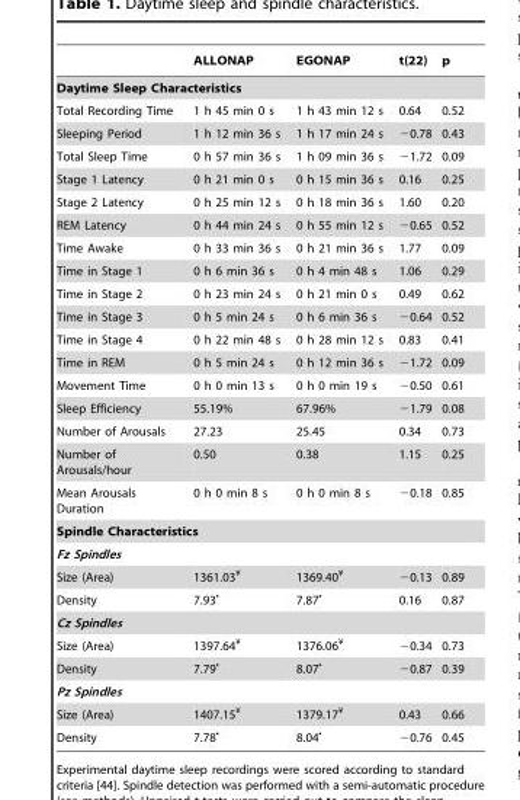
<table><thead><tr><td></td><td>ALLONAP</td><td>EGONAP</td><td>t(22)</td><td>p</td></tr></thead><tbody><tr><td colspan="5">Daytime Sleep Characteristics</td></tr><tr><td>Total Recording Time</td><td>1 h 45 min 0 s</td><td>1 h 43 min 12 s</td><td>0.64</td><td>0.52</td></tr><tr><td>Sleeping Period</td><td>1 h 12 min 36 s</td><td>1 h 17 min 24 s</td><td>−0.78</td><td>0.43</td></tr><tr><td>Total Sleep Time</td><td>0 h 57 min 36 s</td><td>1 h 09 min 36 s</td><td>−1.72</td><td>0.09</td></tr><tr><td>Stage 1 Latency</td><td>0 h 21 min 0 s</td><td>0 h 15 min 36 s</td><td>0.16</td><td>0.25</td></tr><tr><td>Stage 2 Latency</td><td>0 h 25 min 12 s</td><td>0 h 18 min 36 s</td><td>1.60</td><td>0.20</td></tr><tr><td>REM Latency</td><td>0 h 44 min 24 s</td><td>0 h 55 min 12 s</td><td>−0.65</td><td>0.52</td></tr><tr><td>Time Awake</td><td>0 h 33 min 36 s</td><td>0 h 21 min 36 s</td><td>1.77</td><td>0.09</td></tr><tr><td>Time in Stage 1</td><td>0 h 6 min 36 s</td><td>0 h 4 min 48 s</td><td>1.06</td><td>0.29</td></tr><tr><td>Time in Stage 2</td><td>0 h 23 min 24 s</td><td>0 h 21 min 0 s</td><td>0.49</td><td>0.62</td></tr><tr><td>Time in Stage 3</td><td>0 h 5 min 24 s</td><td>0 h 6 min 36 s</td><td>−0.64</td><td>0.52</td></tr><tr><td>Time in Stage 4</td><td>0 h 22 min 48 s</td><td>0 h 28 min 12 s</td><td>0.83</td><td>0.41</td></tr><tr><td>Time in REM</td><td>0 h 5 min 24 s</td><td>0 h 12 min 36 s</td><td>−1.72</td><td>0.09</td></tr><tr><td>Movement Time</td><td>0 h 0 min 13 s</td><td>0 h 0 min 19 s</td><td>−0.50</td><td>0.61</td></tr><tr><td>Sleep Efficiency</td><td>55.19%</td><td>67.96%</td><td>−1.79</td><td>0.08</td></tr><tr><td>Number of Arousals</td><td>27.23</td><td>25.45</td><td>0.34</td><td>0.73</td></tr><tr><td>Number of Arousals/hour</td><td>0.50</td><td>0.38</td><td>1.15</td><td>0.25</td></tr><tr><td>Mean Arousals Duration</td><td>0 h 0 min 8 s</td><td>0 h 0 min 8 s</td><td>−0.18</td><td>0.85</td></tr><tr><td colspan="5">Spindle Characteristics</td></tr><tr><td colspan="5">Fz Spindles</td></tr><tr><td>Size (Area)</td><td>1361.03¥</td><td>1369.40¥</td><td>−0.13</td><td>0.89</td></tr><tr><td>Density</td><td>7.93•</td><td>7.87•</td><td>0.16</td><td>0.87</td></tr><tr><td colspan="5">Cz Spindles</td></tr><tr><td>Size (Area)</td><td>1397.64¥</td><td>1376.06¥</td><td>−0.34</td><td>0.73</td></tr><tr><td>Density</td><td>7.79•</td><td>8.07•</td><td>−0.87</td><td>0.39</td></tr><tr><td colspan="5">Pz Spindles</td></tr><tr><td>Size (Area)</td><td>1407.15¥</td><td>1379.17¥</td><td>0.43</td><td>0.66</td></tr><tr><td>Density</td><td>7.78•</td><td>8.04•</td><td>−0.76</td><td>0.45</td></tr></tbody></table>